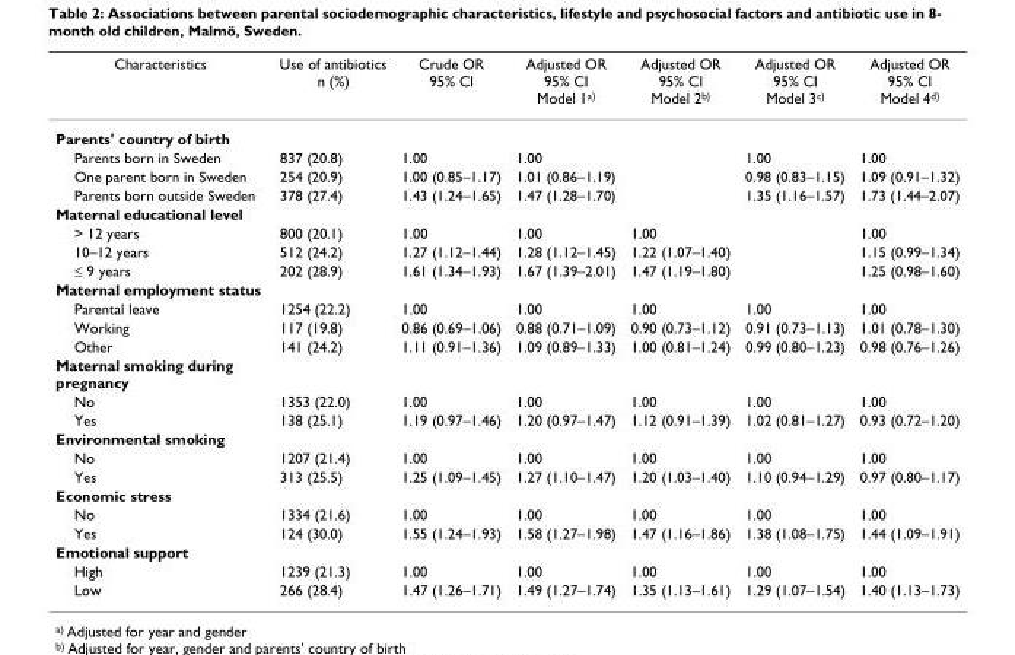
<table><thead><tr><td>Characteristics</td><td>Use of antibiotics n (%)</td><td>Crude OR 95% CI</td><td>Adjusted OR 95% CI Model 1<sup>a)</sup></td><td>Adjusted OR 95% CI Model 2<sup>b)</sup></td><td>Adjusted OR 95% CI Model 3<sup>c)</sup></td><td>Adjusted OR 95% CI Model 4<sup>d)</sup></td></tr></thead><tbody><tr><td colspan="7">Parents&#x27; country of birth</td></tr><tr><td>Parents born in Sweden</td><td>837 (20.8)</td><td>1.00</td><td>1.00</td><td></td><td>1.00</td><td>1.00</td></tr><tr><td>One parent born in Sweden</td><td>254 (20.9)</td><td>1.00 (0.85–1.17)</td><td>1.01 (0.86–1.19)</td><td></td><td>0.98 (0.83–1.15)</td><td>1.09 (0.91–1.32)</td></tr><tr><td>Parents born outside Sweden</td><td>378 (27.4)</td><td>1.43 (1.24–1.65)</td><td>1.47 (1.28–1.70)</td><td></td><td>1.35 (1.16–1.57)</td><td>1.73 (1.44–2.07)</td></tr><tr><td colspan="7">Maternal educational level</td></tr><tr><td>&gt; 12 years</td><td>800 (20.1)</td><td>1.00</td><td>1.00</td><td>1.00</td><td></td><td>1.00</td></tr><tr><td>10–12 years</td><td>512 (24.2)</td><td>1.27 (1.12–1.44)</td><td>1.28 (1.12–1.45)</td><td>1.22 (1.07–1.40)</td><td></td><td>1.15 (0.99–1.34)</td></tr><tr><td>≤ 9 years</td><td>202 (28.9)</td><td>1.61 (1.34–1.93)</td><td>1.67 (1.39–2.01)</td><td>1.47 (1.19–1.80)</td><td></td><td>1.25 (0.98–1.60)</td></tr><tr><td colspan="7">Maternal employment status</td></tr><tr><td>Parental leave</td><td>1254 (22.2)</td><td>1.00</td><td>1.00</td><td>1.00</td><td>1.00</td><td>1.00</td></tr><tr><td>Working</td><td>117 (19.8)</td><td>0.86 (0.69–1.06)</td><td>0.88 (0.71–1.09)</td><td>0.90 (0.73–1.12)</td><td>0.91 (0.73–1.13)</td><td>1.01 (0.78–1.30)</td></tr><tr><td>Other</td><td>141 (24.2)</td><td>1.11 (0.91–1.36)</td><td>1.09 (0.89–1.33)</td><td>1.00 (0.81–1.24)</td><td>0.99 (0.80–1.23)</td><td>0.98 (0.76–1.26)</td></tr><tr><td colspan="7">Maternal smoking during pregnancy</td></tr><tr><td>No</td><td>1353 (22.0)</td><td>1.00</td><td>1.00</td><td>1.00</td><td>1.00</td><td>1.00</td></tr><tr><td>Yes</td><td>138 (25.1)</td><td>1.19 (0.97–1.46)</td><td>1.20 (0.97–1.47)</td><td>1.12 (0.91–1.39)</td><td>1.02 (0.81–1.27)</td><td>0.93 (0.72–1.20)</td></tr><tr><td colspan="7">Environmental smoking</td></tr><tr><td>No</td><td>1207 (21.4)</td><td>1.00</td><td>1.00</td><td>1.00</td><td>1.00</td><td>1.00</td></tr><tr><td>Yes</td><td>313 (25.5)</td><td>1.25 (1.09–1.45)</td><td>1.27 (1.10–1.47)</td><td>1.20 (1.03–1.40)</td><td>1.10 (0.94–1.29)</td><td>0.97 (0.80–1.17)</td></tr><tr><td colspan="7">Economic stress</td></tr><tr><td>No</td><td>1334 (21.6)</td><td>1.00</td><td>1.00</td><td>1.00</td><td>1.00</td><td>1.00</td></tr><tr><td>Yes</td><td>124 (30.0)</td><td>1.55 (1.24–1.93)</td><td>1.58 (1.27–1.98)</td><td>1.47 (1.16–1.86)</td><td>1.38 (1.08–1.75)</td><td>1.44 (1.09–1.91)</td></tr><tr><td colspan="7">Emotional support</td></tr><tr><td>High</td><td>1239 (21.3)</td><td>1.00</td><td>1.00</td><td>1.00</td><td>1.00</td><td>1.00</td></tr><tr><td>Low</td><td>266 (28.4)</td><td>1.47 (1.26–1.71)</td><td>1.49 (1.27–1.74)</td><td>1.35 (1.13–1.61)</td><td>1.29 (1.07–1.54)</td><td>1.40 (1.13–1.73)</td></tr></tbody></table>